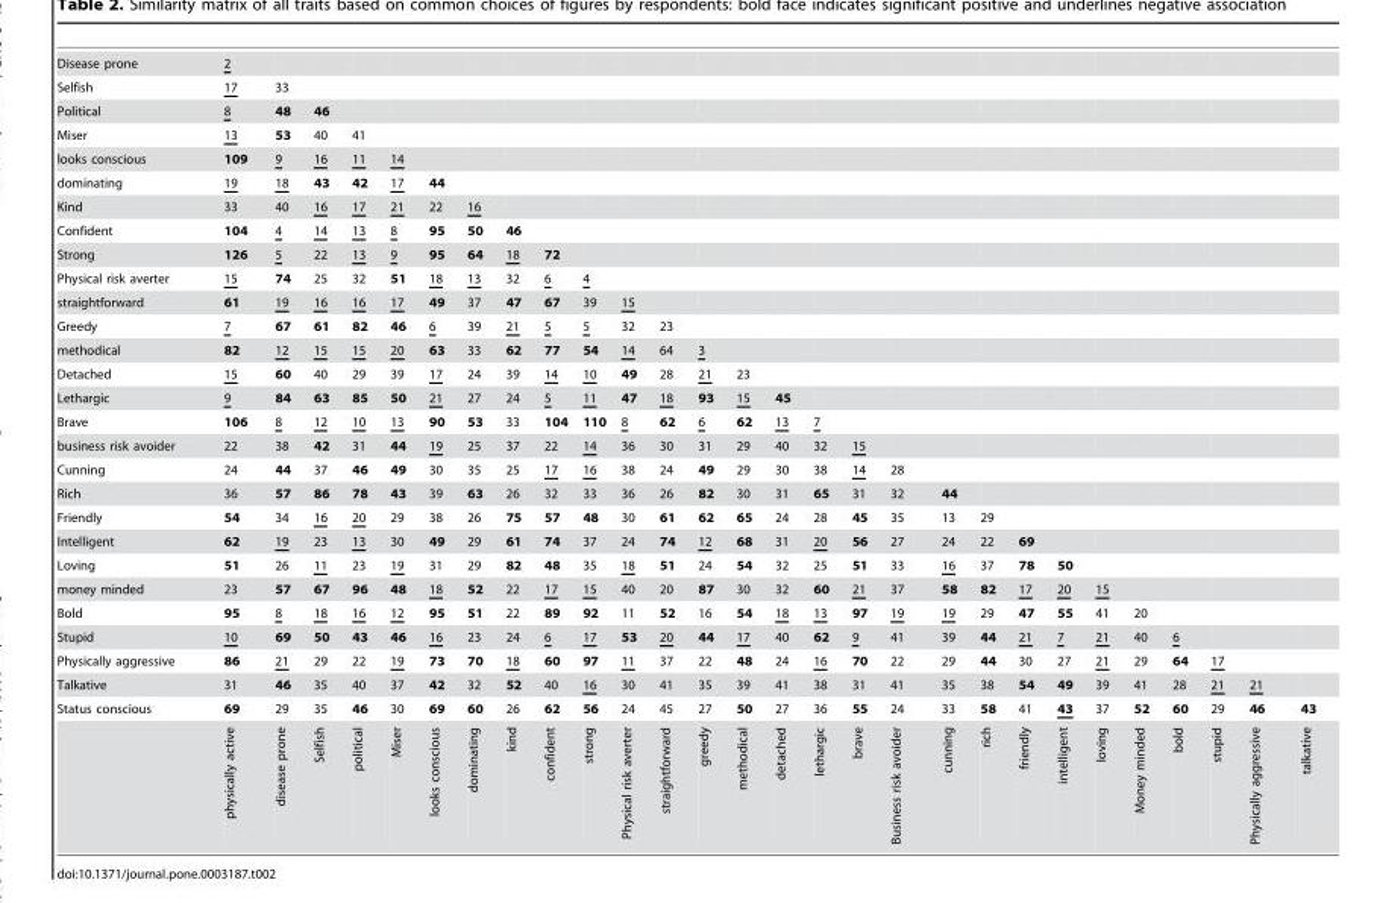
<table><tbody><tr><td>Disease prone</td><td>2</td><td></td><td></td><td></td><td></td><td></td><td></td><td></td><td></td><td></td><td></td><td></td><td></td><td></td><td></td><td></td><td></td><td></td><td></td><td></td><td></td><td></td><td></td><td></td><td></td><td></td><td></td><td></td></tr><tr><td>Selfish</td><td>17</td><td>33</td><td></td><td></td><td></td><td></td><td></td><td></td><td></td><td></td><td></td><td></td><td></td><td></td><td></td><td></td><td></td><td></td><td></td><td></td><td></td><td></td><td></td><td></td><td></td><td></td><td></td><td></td></tr><tr><td>Political</td><td>8</td><td>48</td><td>46</td><td></td><td></td><td></td><td></td><td></td><td></td><td></td><td></td><td></td><td></td><td></td><td></td><td></td><td></td><td></td><td></td><td></td><td></td><td></td><td></td><td></td><td></td><td></td><td></td><td></td></tr><tr><td>Miser</td><td>13</td><td>53</td><td>40</td><td>41</td><td></td><td></td><td></td><td></td><td></td><td></td><td></td><td></td><td></td><td></td><td></td><td></td><td></td><td></td><td></td><td></td><td></td><td></td><td></td><td></td><td></td><td></td><td></td><td></td></tr><tr><td>looks conscious</td><td>109</td><td>9</td><td>16</td><td>11</td><td>14</td><td></td><td></td><td></td><td></td><td></td><td></td><td></td><td></td><td></td><td></td><td></td><td></td><td></td><td></td><td></td><td></td><td></td><td></td><td></td><td></td><td></td><td></td><td></td></tr><tr><td>dominating</td><td>19</td><td>18</td><td>43</td><td>42</td><td>17</td><td>44</td><td></td><td></td><td></td><td></td><td></td><td></td><td></td><td></td><td></td><td></td><td></td><td></td><td></td><td></td><td></td><td></td><td></td><td></td><td></td><td></td><td></td><td></td></tr><tr><td>Kind</td><td>33</td><td>40</td><td>16</td><td>17</td><td>21</td><td>22</td><td>16</td><td></td><td></td><td></td><td></td><td></td><td></td><td></td><td></td><td></td><td></td><td></td><td></td><td></td><td></td><td></td><td></td><td></td><td></td><td></td><td></td><td></td></tr><tr><td>Confident</td><td>104</td><td>4</td><td>14</td><td>13</td><td>8</td><td>95</td><td>50</td><td>46</td><td></td><td></td><td></td><td></td><td></td><td></td><td></td><td></td><td></td><td></td><td></td><td></td><td></td><td></td><td></td><td></td><td></td><td></td><td></td><td></td></tr><tr><td>Strong</td><td>126</td><td>5</td><td>22</td><td>13</td><td>9</td><td>95</td><td>64</td><td>18</td><td>72</td><td></td><td></td><td></td><td></td><td></td><td></td><td></td><td></td><td></td><td></td><td></td><td></td><td></td><td></td><td></td><td></td><td></td><td></td><td></td></tr><tr><td>Physical risk averter</td><td>15</td><td>74</td><td>25</td><td>32</td><td>51</td><td>18</td><td>13</td><td>32</td><td>6</td><td>4</td><td></td><td></td><td></td><td></td><td></td><td></td><td></td><td></td><td></td><td></td><td></td><td></td><td></td><td></td><td></td><td></td><td></td><td></td></tr><tr><td>straightforward</td><td>61</td><td>19</td><td>16</td><td>16</td><td>17</td><td>49</td><td>37</td><td>47</td><td>67</td><td>39</td><td>15</td><td></td><td></td><td></td><td></td><td></td><td></td><td></td><td></td><td></td><td></td><td></td><td></td><td></td><td></td><td></td><td></td><td></td></tr><tr><td>Greedy</td><td>7</td><td>67</td><td>61</td><td>82</td><td>46</td><td>6</td><td>39</td><td>21</td><td>5</td><td>5</td><td>32</td><td>23</td><td></td><td></td><td></td><td></td><td></td><td></td><td></td><td></td><td></td><td></td><td></td><td></td><td></td><td></td><td></td><td></td></tr><tr><td>methodical</td><td>82</td><td>12</td><td>15</td><td>15</td><td>20</td><td>63</td><td>33</td><td>62</td><td>77</td><td>54</td><td>14</td><td>64</td><td>3</td><td></td><td></td><td></td><td></td><td></td><td></td><td></td><td></td><td></td><td></td><td></td><td></td><td></td><td></td><td></td></tr><tr><td>Detached</td><td>15</td><td>60</td><td>40</td><td>29</td><td>39</td><td>17</td><td>24</td><td>39</td><td>14</td><td>10</td><td>49</td><td>28</td><td>21</td><td>23</td><td></td><td></td><td></td><td></td><td></td><td></td><td></td><td></td><td></td><td></td><td></td><td></td><td></td><td></td></tr><tr><td>Lethargic</td><td>9</td><td>84</td><td>63</td><td>85</td><td>50</td><td>21</td><td>27</td><td>24</td><td>5</td><td>11</td><td>47</td><td>18</td><td>93</td><td>15</td><td>45</td><td></td><td></td><td></td><td></td><td></td><td></td><td></td><td></td><td></td><td></td><td></td><td></td><td></td></tr><tr><td>Brave</td><td>106</td><td>8</td><td>12</td><td>10</td><td>13</td><td>90</td><td>53</td><td>33</td><td>104</td><td>110</td><td>8</td><td>62</td><td>6</td><td>62</td><td>13</td><td>7</td><td></td><td></td><td></td><td></td><td></td><td></td><td></td><td></td><td></td><td></td><td></td><td></td></tr><tr><td>business risk avoider</td><td>22</td><td>38</td><td>42</td><td>31</td><td>44</td><td>19</td><td>25</td><td>37</td><td>22</td><td>14</td><td>36</td><td>30</td><td>31</td><td>29</td><td>40</td><td>32</td><td>15</td><td></td><td></td><td></td><td></td><td></td><td></td><td></td><td></td><td></td><td></td><td></td></tr><tr><td>Cunning</td><td>24</td><td>44</td><td>37</td><td>46</td><td>49</td><td>30</td><td>35</td><td>25</td><td>17</td><td>16</td><td>38</td><td>24</td><td>49</td><td>29</td><td>30</td><td>38</td><td>14</td><td>28</td><td></td><td></td><td></td><td></td><td></td><td></td><td></td><td></td><td></td><td></td></tr><tr><td>Rich</td><td>36</td><td>57</td><td>86</td><td>78</td><td>43</td><td>39</td><td>63</td><td>26</td><td>32</td><td>33</td><td>36</td><td>26</td><td>82</td><td>30</td><td>31</td><td>65</td><td>31</td><td>32</td><td>44</td><td></td><td></td><td></td><td></td><td></td><td></td><td></td><td></td><td></td></tr><tr><td>Friendly</td><td>54</td><td>34</td><td>16</td><td>20</td><td>29</td><td>38</td><td>26</td><td>75</td><td>57</td><td>48</td><td>30</td><td>61</td><td>62</td><td>65</td><td>24</td><td>28</td><td>45</td><td>35</td><td>13</td><td>29</td><td></td><td></td><td></td><td></td><td></td><td></td><td></td><td></td></tr><tr><td>Intelligent</td><td>62</td><td>19</td><td>23</td><td>13</td><td>30</td><td>49</td><td>29</td><td>61</td><td>74</td><td>37</td><td>24</td><td>74</td><td>12</td><td>68</td><td>31</td><td>20</td><td>56</td><td>27</td><td>24</td><td>22</td><td>69</td><td></td><td></td><td></td><td></td><td></td><td></td><td></td></tr><tr><td>Loving</td><td>51</td><td>26</td><td>11</td><td>23</td><td>19</td><td>31</td><td>29</td><td>82</td><td>48</td><td>35</td><td>18</td><td>51</td><td>24</td><td>54</td><td>32</td><td>25</td><td>51</td><td>33</td><td>16</td><td>37</td><td>78</td><td>50</td><td></td><td></td><td></td><td></td><td></td><td></td></tr><tr><td>money minded</td><td>23</td><td>57</td><td>67</td><td>96</td><td>48</td><td>18</td><td>52</td><td>22</td><td>17</td><td>15</td><td>40</td><td>20</td><td>87</td><td>30</td><td>32</td><td>60</td><td>21</td><td>37</td><td>58</td><td>82</td><td>17</td><td>20</td><td>15</td><td></td><td></td><td></td><td></td><td></td></tr><tr><td>Bold</td><td>95</td><td>8</td><td>18</td><td>16</td><td>12</td><td>95</td><td>51</td><td>22</td><td>89</td><td>92</td><td>11</td><td>52</td><td>16</td><td>54</td><td>18</td><td>13</td><td>97</td><td>19</td><td>19</td><td>29</td><td>47</td><td>55</td><td>41</td><td>20</td><td></td><td></td><td></td><td></td></tr><tr><td>Stupid</td><td>10</td><td>69</td><td>50</td><td>43</td><td>46</td><td>16</td><td>23</td><td>24</td><td>6</td><td>17</td><td>53</td><td>20</td><td>44</td><td>17</td><td>40</td><td>62</td><td>9</td><td>41</td><td>39</td><td>44</td><td>21</td><td>7</td><td>21</td><td>40</td><td>6</td><td></td><td></td><td></td></tr><tr><td>Physically aggressive</td><td>86</td><td>21</td><td>29</td><td>22</td><td>19</td><td>73</td><td>70</td><td>18</td><td>60</td><td>97</td><td>11</td><td>37</td><td>22</td><td>48</td><td>24</td><td>16</td><td>70</td><td>22</td><td>29</td><td>44</td><td>30</td><td>27</td><td>21</td><td>29</td><td>64</td><td>17</td><td></td><td></td></tr><tr><td>Talkative</td><td>31</td><td>46</td><td>35</td><td>40</td><td>37</td><td>42</td><td>32</td><td>52</td><td>40</td><td>16</td><td>30</td><td>41</td><td>35</td><td>39</td><td>41</td><td>38</td><td>31</td><td>41</td><td>35</td><td>38</td><td>54</td><td>49</td><td>39</td><td>41</td><td>28</td><td>21</td><td>21</td><td></td></tr><tr><td rowspan="2">Status conscious</td><td>69</td><td>29</td><td>35</td><td>46</td><td>30</td><td>69</td><td>60</td><td>26</td><td>62</td><td>56</td><td>24</td><td>45</td><td>27</td><td>50</td><td>27</td><td>36</td><td>55</td><td>24</td><td>33</td><td>58</td><td>41</td><td>43</td><td>37</td><td>52</td><td>60</td><td>29</td><td>46</td><td>43</td></tr><tr><td>physically active</td><td>disease prone</td><td>Selfish</td><td>political</td><td>Miser</td><td>looks conscious</td><td>dominating</td><td>kind</td><td>confident</td><td>strong</td><td>Physical risk averter</td><td>straightforward</td><td>greedy</td><td>methodical</td><td>detached</td><td>lethargic</td><td>brave</td><td>Business risk avoider</td><td>cunning</td><td>rich</td><td>friendly</td><td>intelligent</td><td>loving</td><td>Money minded</td><td>bold</td><td>stupid</td><td>Physically aggressive</td><td>talkative</td></tr></tbody></table>